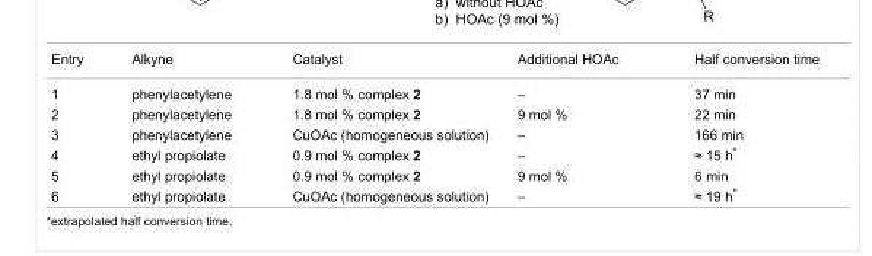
<table><tbody><tr><td>Entry</td><td>Alkyne</td><td>Catalyst</td><td>Additional HOAc</td><td>Half conversion time</td></tr><tr><td>1</td><td>phenylacetylene</td><td>1.8 mol % complex 2</td><td>–</td><td>37 min</td></tr><tr><td>2</td><td>phenylacetylene</td><td>1.8 mol % complex 2</td><td>9 mol %</td><td>22 min</td></tr><tr><td>3</td><td>phenylacetylene</td><td>CuOAc (homogeneous solution)</td><td>–</td><td>166 min</td></tr><tr><td>4</td><td>ethyl propiolate</td><td>0.9 mol % complex 2</td><td>–</td><td>≈ 15 h*</td></tr><tr><td>5</td><td>ethyl propiolate</td><td>0.9 mol % complex 2</td><td>9 mol %</td><td>6 min</td></tr><tr><td>6</td><td>ethyl propiolate</td><td>CuOAc (homogeneous solution)</td><td>–</td><td>≈ 19 h*</td></tr></tbody></table>